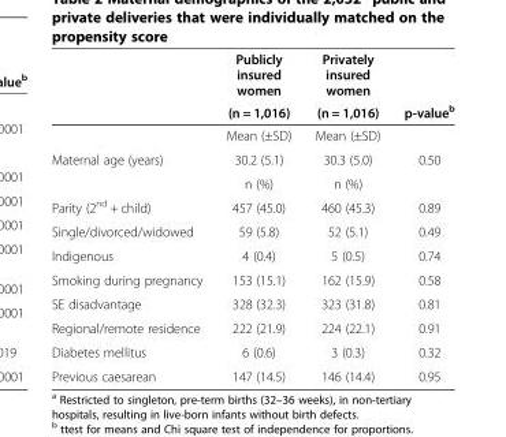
<table><thead><tr><td rowspan="2"></td><td rowspan="2">Publicly insured women (n = 1,016)</td><td rowspan="2">Privately insured women (n = 1,016)</td><td rowspan="2">p-value<sup>b</sup></td></tr><tr></tr></thead><tbody><tr><td></td><td>Mean (±SD)</td><td>Mean (±SD)</td><td></td></tr><tr><td rowspan="2">Maternal age (years)</td><td>30.2 (5.1)</td><td>30.3 (5.0)</td><td>0.50</td></tr><tr><td>n (%)</td><td>n (%)</td><td></td></tr><tr><td>Parity (2<sup>nd</sup> + child)</td><td>457 (45.0)</td><td>460 (45.3)</td><td>0.89</td></tr><tr><td>Single/divorced/widowed</td><td>59 (5.8)</td><td>52 (5.1)</td><td>0.49</td></tr><tr><td>Indigenous</td><td>4 (0.4)</td><td>5 (0.5)</td><td>0.74</td></tr><tr><td>Smoking during pregnancy</td><td>153 (15.1)</td><td>162 (15.9)</td><td>0.58</td></tr><tr><td>SE disadvantage</td><td>328 (32.3)</td><td>323 (31.8)</td><td>0.81</td></tr><tr><td>Regional/remote residence</td><td>222 (21.9)</td><td>224 (22.1)</td><td>0.91</td></tr><tr><td>Diabetes mellitus</td><td>6 (0.6)</td><td>3 (0.3)</td><td>0.32</td></tr><tr><td>Previous caesarean</td><td>147 (14.5)</td><td>146 (14.4)</td><td>0.95</td></tr></tbody></table>